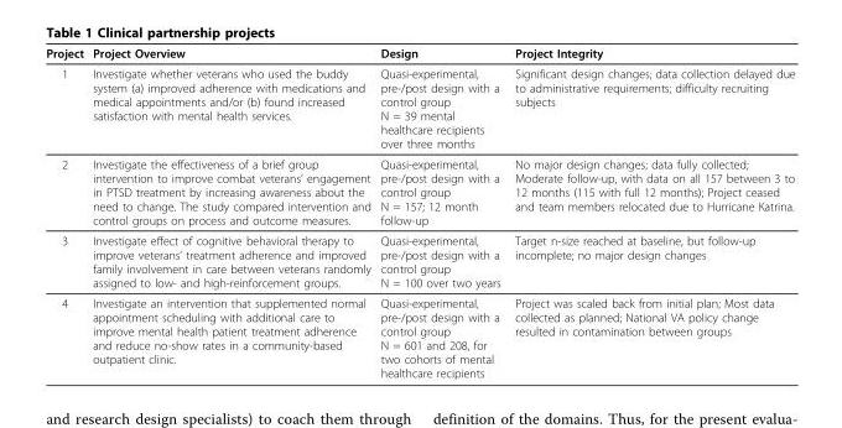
<table><thead><tr><td>Project</td><td>Project Overview</td><td>Design</td><td>Project Integrity</td></tr></thead><tbody><tr><td>1</td><td>Investigate whether veterans who used the buddy system (a) improved adherence with medications and medical appointments and/or (b) found increased satisfaction with mental health services.</td><td>Quasi-experimental, pre-/post design with a control group N = 39 mental healthcare recipients over three months</td><td>Significant design changes; data collection delayed due to administrative requirements; difficulty recruiting subjects</td></tr><tr><td>2</td><td>Investigate the effectiveness of a brief group intervention to improve combat veterans’ engagement in PTSD treatment by increasing awareness about the need to change. The study compared intervention and control groups on process and outcome measures.</td><td>Quasi-experimental, pre-/post design with a control group N = 157; 12 month follow-up</td><td>No major design changes; data fully collected; Moderate follow-up, with data on all 157 between 3 to 12 months (115 with full 12 months); Project ceased and team members relocated due to Hurricane Katrina.</td></tr><tr><td>3</td><td>Investigate effect of cognitive behavioral therapy to improve veterans’ treatment adherence and improved family involvement in care between veterans randomly assigned to low- and high-reinforcement groups.</td><td>Quasi-experimental, pre-/post design with a control group N = 100 over two years</td><td>Target n-size reached at baseline, but follow-up incomplete; no major design changes</td></tr><tr><td>4</td><td>Investigate an intervention that supplemented normal appointment scheduling with additional care to improve mental health patient treatment adherence and reduce no-show rates in a community-based outpatient clinic.</td><td>Quasi-experimental, pre-/post design with a control group N = 601 and 208, for two cohorts of mental healthcare recipients</td><td>Project was scaled back from initial plan; Most data collected as planned; National VA policy change resulted in contamination between groups</td></tr></tbody></table>